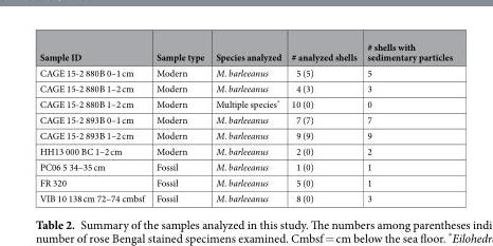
<table><thead><tr><td>Sample ID</td><td>Sample type</td><td>Species analyzed</td><td># analyzed shells</td><td># shells with sedimentary particles</td></tr></thead><tbody><tr><td>CAGE 15-2 880B 0–1 cm</td><td>Modern</td><td>M. barleeanus</td><td>5 (5)</td><td>5</td></tr><tr><td>CAGE 15-2 880B 1–2 cm</td><td>Modern</td><td>M. barleeanus</td><td>4 (3)</td><td>3</td></tr><tr><td>CAGE 15-2 880B 1–2 cm</td><td>Modern</td><td>Multiple species*</td><td>10 (0)</td><td>0</td></tr><tr><td>CAGE 15-2 893B 0–1 cm</td><td>Modern</td><td>M. barleeanus</td><td>7 (7)</td><td>7</td></tr><tr><td>CAGE 15-2 893B 1–2 cm</td><td>Modern</td><td>M. barleeanus</td><td>9 (9)</td><td>9</td></tr><tr><td>HH13 000 BC 1–2 cm</td><td>Modern</td><td>M. barleeanus</td><td>2 (0)</td><td>2</td></tr><tr><td>PC06 5 34–35 cm</td><td>Fossil</td><td>M. barleeanus</td><td>1 (0)</td><td>1</td></tr><tr><td>FR 320</td><td>Fossil</td><td>M. barleeanus</td><td>5 (0)</td><td>1</td></tr><tr><td>VIB 10 138 cm 72–74 cmbsf</td><td>Fossil</td><td>M. barleeanus</td><td>8 (0)</td><td>3</td></tr></tbody></table>